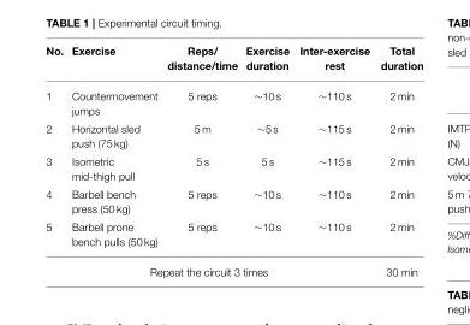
<table><thead><tr><td>No.</td><td>Exercise</td><td>Reps/ distance/time</td><td>Exercise duration</td><td>Inter-exercise rest</td><td>Total duration</td></tr></thead><tbody><tr><td>1</td><td>Countermovement jumps</td><td>5 reps</td><td>∼10 s</td><td>∼110 s</td><td>2 min</td></tr><tr><td>2</td><td>Horizontal sled push (75 kg)</td><td>5 m</td><td>∼5 s</td><td>∼115 s</td><td>2 min</td></tr><tr><td>3</td><td>Isometric mid-thigh pull</td><td>5 s</td><td>5 s</td><td>∼115 s</td><td>2 min</td></tr><tr><td>4</td><td>Barbell bench press (50 kg)</td><td>5 reps</td><td>∼10 s</td><td>∼110 s</td><td>2 min</td></tr><tr><td>5</td><td>Barbell prone bench pulls (50 kg)</td><td>5 reps</td><td>∼10 s</td><td>∼110 s</td><td>2 min</td></tr><tr><td colspan="5">Repeat the circuit 3 times</td><td>30 min</td></tr></tbody></table>